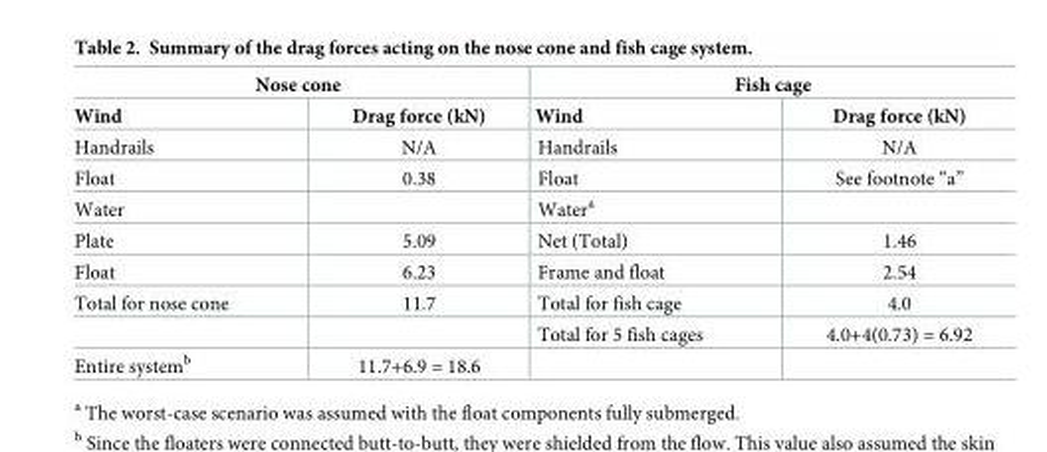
<table><thead><tr><td colspan="2">Nose cone</td><td colspan="2">Fish cage</td></tr><tr><td>Wind</td><td>Drag force (kN)</td><td>Wind</td><td>Drag force (kN)</td></tr></thead><tbody><tr><td>Handrails</td><td>N/A</td><td>Handrails</td><td>N/A</td></tr><tr><td>Float</td><td>0.38</td><td>Float</td><td>See footnote “a”</td></tr><tr><td>Water</td><td></td><td>Water<sup>a</sup></td><td></td></tr><tr><td>Plate</td><td>5.09</td><td>Net (Total)</td><td>1.46</td></tr><tr><td>Float</td><td>6.23</td><td>Frame and float</td><td>2.54</td></tr><tr><td rowspan="2">Total for nose cone</td><td>11.7</td><td>Total for fish cage</td><td>4.0</td></tr><tr><td></td><td>Total for 5 fish cages</td><td>4.0+4(0.73) = 6.92</td></tr><tr><td>Entire system<sup>b</sup></td><td>11.7+6.9 = 18.6</td><td></td><td></td></tr></tbody></table>